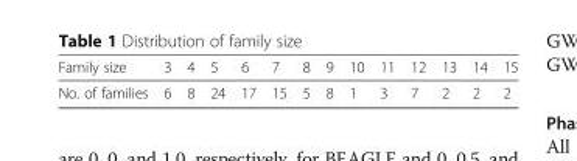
<table><thead><tr><td>Family size</td><td>3</td><td>4</td><td>5</td><td>6</td><td>7</td><td>8</td><td>9</td><td>10</td><td>11</td><td>12</td><td>13</td><td>14</td><td>15</td></tr></thead><tbody><tr><td>No. of families</td><td>6</td><td>8</td><td>24</td><td>17</td><td>15</td><td>5</td><td>8</td><td>1</td><td>3</td><td>7</td><td>2</td><td>2</td><td>2</td></tr></tbody></table>